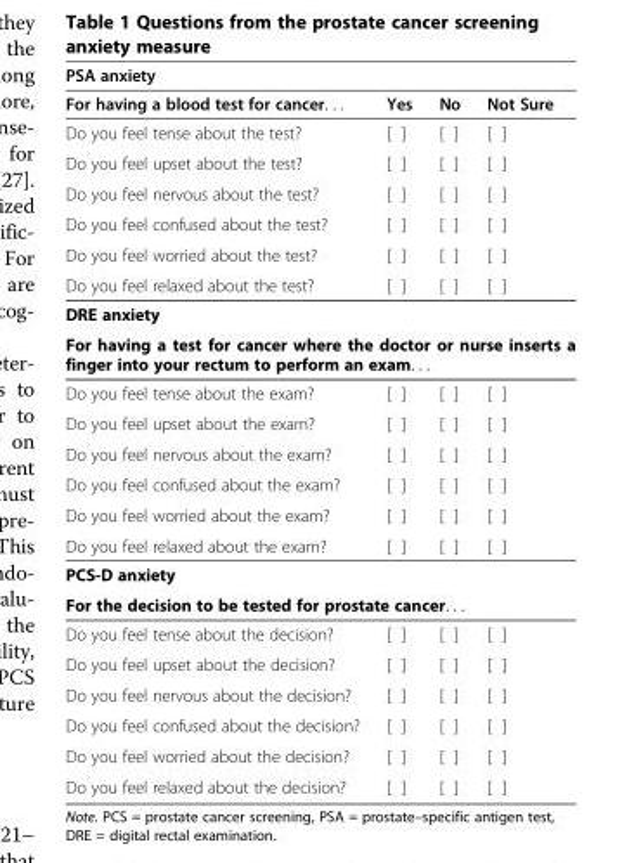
<table><thead><tr><td colspan="4">PSA anxiety</td></tr><tr><td>For having a blood test for cancer. . .</td><td>Yes</td><td>No</td><td>Not Sure</td></tr></thead><tbody><tr><td>Do you feel tense about the test?</td><td>[ ]</td><td>[ ]</td><td>[ ]</td></tr><tr><td>Do you feel upset about the test?</td><td>[ ]</td><td>[ ]</td><td>[ ]</td></tr><tr><td>Do you feel nervous about the test?</td><td>[ ]</td><td>[ ]</td><td>[ ]</td></tr><tr><td>Do you feel confused about the test?</td><td>[ ]</td><td>[ ]</td><td>[ ]</td></tr><tr><td>Do you feel worried about the test?</td><td>[ ]</td><td>[ ]</td><td>[ ]</td></tr><tr><td>Do you feel relaxed about the test?</td><td>[ ]</td><td>[ ]</td><td>[ ]</td></tr><tr><td colspan="4">DRE anxiety</td></tr><tr><td colspan="4">For having a test for cancer where the doctor or nurse inserts a finger into your rectum to perform an exam. . .</td></tr><tr><td>Do you feel tense about the exam?</td><td>[ ]</td><td>[ ]</td><td>[ ]</td></tr><tr><td>Do you feel upset about the exam?</td><td>[ ]</td><td>[ ]</td><td>[ ]</td></tr><tr><td>Do you feel nervous about the exam?</td><td>[ ]</td><td>[ ]</td><td>[ ]</td></tr><tr><td>Do you feel confused about the exam?</td><td>[ ]</td><td>[ ]</td><td>[ ]</td></tr><tr><td>Do you feel worried about the exam?</td><td>[ ]</td><td>[ ]</td><td>[ ]</td></tr><tr><td>Do you feel relaxed about the exam?</td><td>[ ]</td><td>[ ]</td><td>[ ]</td></tr><tr><td colspan="4">PCS-D anxiety</td></tr><tr><td colspan="4">For the decision to be tested for prostate cancer. . .</td></tr><tr><td>Do you feel tense about the decision?</td><td>[ ]</td><td>[ ]</td><td>[ ]</td></tr><tr><td>Do you feel upset about the decision?</td><td>[ ]</td><td>[ ]</td><td>[ ]</td></tr><tr><td>Do you feel nervous about the decision?</td><td>[ ]</td><td>[ ]</td><td>[ ]</td></tr><tr><td>Do you feel confused about the decision?</td><td>[ ]</td><td>[ ]</td><td>[ ]</td></tr><tr><td>Do you feel worried about the decision?</td><td>[ ]</td><td>[ ]</td><td>[ ]</td></tr><tr><td>Do you feel relaxed about the decision?</td><td>[ ]</td><td>[ ]</td><td>[ ]</td></tr></tbody></table>